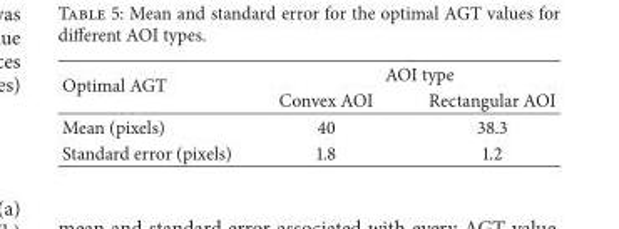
<table><thead><tr><td rowspan="2">Optimal AGT</td><td colspan="2">AOI type</td></tr><tr><td>Convex AOI</td><td>Rectangular AOI</td></tr></thead><tbody><tr><td>Mean (pixels)</td><td>40</td><td>38.3</td></tr><tr><td>Standard error (pixels)</td><td>1.8</td><td>1.2</td></tr></tbody></table>